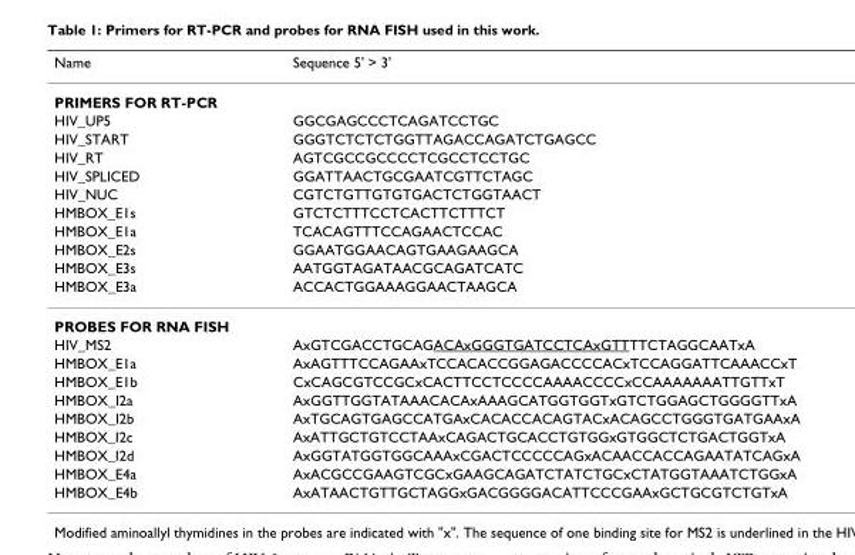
<table><thead><tr><td>Name</td><td>Sequence 5&#x27; &gt; 3&#x27;</td></tr></thead><tbody><tr><td colspan="2">PRIMERS FOR RT-PCR</td></tr><tr><td>HIV_UP5</td><td>GGCGAGCCCTCAGATCCTGC</td></tr><tr><td>HIV_START</td><td>GGGTCTCTCTGGTTAGACCAGATCTGAGCC</td></tr><tr><td>HIV_RT</td><td>AGTCGCCGCCCCTCGCCTCCTGC</td></tr><tr><td>HIV_SPLICED</td><td>GGATTAACTGCGAATCGTTCTAGC</td></tr><tr><td>HIV_NUC</td><td>CGTCTGTTGTGTGACTCTGGTAACT</td></tr><tr><td>HMBOX_E1s</td><td>GTCTCTTTCCTCACTTCTTTCT</td></tr><tr><td>HMBOX_E1a</td><td>TCACAGTTTCCAGAACTCCAC</td></tr><tr><td>HMBOX_E2s</td><td>GGAATGGAACAGTGAAGAAGCA</td></tr><tr><td>HMBOX_E3s</td><td>AATGGTAGATAACGCAGATCATC</td></tr><tr><td>HMBOX_E3a</td><td>ACCACTGGAAAGGAACTAAGCA</td></tr><tr><td colspan="2">PROBES FOR RNA FISH</td></tr><tr><td>HIV_MS2</td><td>AxGTCGACCTGCAGACAxGGGTGATCCTCAxGTTTTCTAGGCAATxA</td></tr><tr><td>HMBOX_E1a</td><td>AxAGTTTCCAGAAxTCCACACCGGAGACCCCACxTCCAGGATTCAAACCxT</td></tr><tr><td>HMBOX_E1b</td><td>CxCAGCGTCCGCxCACTTCCTCCCCAAAACCCCxCCAAAAAAATTGTTxT</td></tr><tr><td>HMBOX_I2a</td><td>AxGGTTGGTATAAACACAxAAAGCATGGTGGTxGTCTGGAGCTGGGGTTxA</td></tr><tr><td>HMBOX_I2b</td><td>AxTGCAGTGAGCCATGAxCACACCACAGTACxACAGCCTGGGTGATGAAxA</td></tr><tr><td>HMBOX_I2c</td><td>AxATTGCTGTCCTAAxCAGACTGCACCTGTGGxGTGGCTCTGACTGGTxA</td></tr><tr><td>HMBOX_I2d</td><td>AxGGTATGGTGGCAAAxCGACTCCCCCAGxACAACCACCAGAATATCAGxA</td></tr><tr><td>HMBOX_E4a</td><td>AxACGCCGAAGTCGCxGAAGCAGATCTATCTGCxCTATGGTAAATCTGGxA</td></tr><tr><td>HMBOX_E4b</td><td>AxATAACTGTTGCTAGGxGACGGGGACATTCCCGAAxGCTGCGTCTGTxA</td></tr></tbody></table>